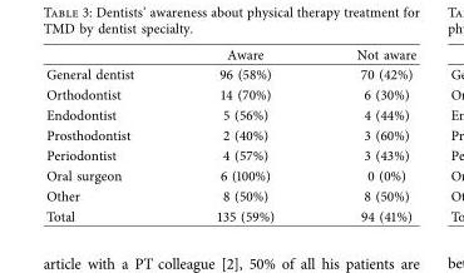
<table><thead><tr><td></td><td>Aware</td><td>Not aware</td></tr></thead><tbody><tr><td>General dentist</td><td>96 (58%)</td><td>70 (42%)</td></tr><tr><td>Orthodontist</td><td>14 (70%)</td><td>6 (30%)</td></tr><tr><td>Endodontist</td><td>5 (56%)</td><td>4 (44%)</td></tr><tr><td>Prosthodontist</td><td>2 (40%)</td><td>3 (60%)</td></tr><tr><td>Periodontist</td><td>4 (57%)</td><td>3 (43%)</td></tr><tr><td>Oral surgeon</td><td>6 (100%)</td><td>0 (0%)</td></tr><tr><td>Other</td><td>8 (50%)</td><td>8 (50%)</td></tr><tr><td>Total</td><td>135 (59%)</td><td>94 (41%)</td></tr></tbody></table>